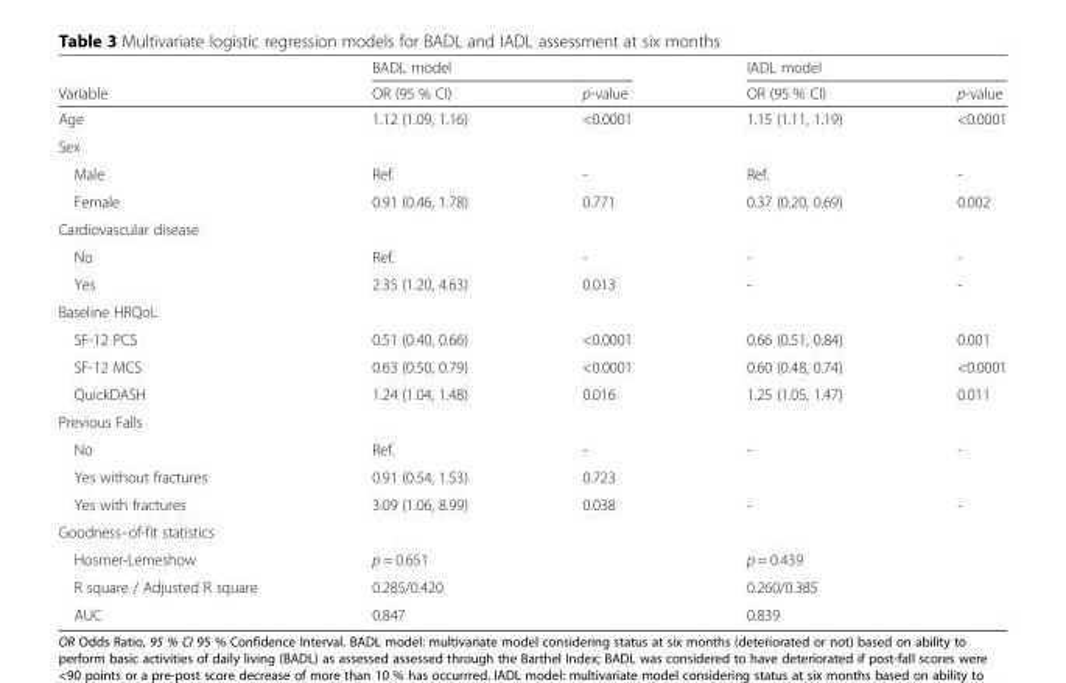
<table><thead><tr><td rowspan="2">Variable</td><td colspan="2">BADL model</td><td colspan="2">IADL model</td></tr><tr><td>OR (95 % CI)</td><td>p-value</td><td>OR (95 % CI)</td><td>p-value</td></tr></thead><tbody><tr><td>Age</td><td>1.12 (1.09, 1.16)</td><td>&lt;0.0001</td><td>1.15 (1.11, 1.19)</td><td>&lt;0.0001</td></tr><tr><td colspan="5">Sex</td></tr><tr><td>Male</td><td>Ref.</td><td>-</td><td>Ref.</td><td>-</td></tr><tr><td>Female</td><td>0.91 (0.46, 1.78)</td><td>0.771</td><td>0.37 (0.20, 0.69)</td><td>0.002</td></tr><tr><td colspan="5">Cardiovascular disease</td></tr><tr><td>No</td><td>Ref.</td><td>-</td><td>-</td><td>-</td></tr><tr><td>Yes</td><td>2.35 (1.20, 4.63)</td><td>0.013</td><td>-</td><td>-</td></tr><tr><td colspan="5">Baseline HRQoL</td></tr><tr><td>SF-12 PCS</td><td>0.51 (0.40, 0.66)</td><td>&lt;0.0001</td><td>0.66 (0.51, 0.84)</td><td>0.001</td></tr><tr><td>SF-12 MCS</td><td>0.63 (0.50, 0.79)</td><td>&lt;0.0001</td><td>0.60 (0.48, 0.74)</td><td>&lt;0.0001</td></tr><tr><td>QuickDASH</td><td>1.24 (1.04, 1.48)</td><td>0.016</td><td>1.25 (1.05, 1.47)</td><td>0.011</td></tr><tr><td colspan="5">Previous Falls</td></tr><tr><td>No</td><td>Ref.</td><td>-</td><td>-</td><td>-</td></tr><tr><td>Yes without fractures</td><td>0.91 (0.54, 1.53)</td><td>0.723</td><td></td><td></td></tr><tr><td>Yes with fractures</td><td>3.09 (1.06, 8.99)</td><td>0.038</td><td>-</td><td>-</td></tr><tr><td colspan="5">Goodness–of-fit statistics</td></tr><tr><td>Hosmer-Lemeshow</td><td>p = 0.651</td><td></td><td>p = 0.439</td><td></td></tr><tr><td>R square / Adjusted R square</td><td>0.285/0.420</td><td></td><td>0.260/0.385</td><td></td></tr><tr><td>AUC</td><td>0.847</td><td></td><td>0.839</td><td></td></tr></tbody></table>